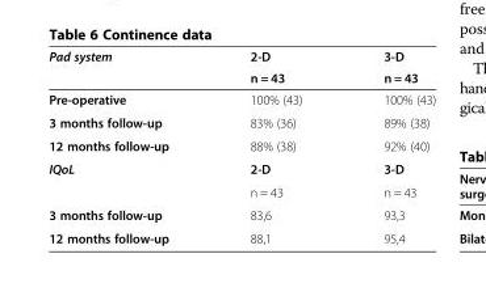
<table><thead><tr><td rowspan="2">Pad system</td><td rowspan="2">2-D n = 43</td><td rowspan="2">3-D n = 43</td></tr><tr></tr></thead><tbody><tr><td>Pre-operative</td><td>100% (43)</td><td>100% (43)</td></tr><tr><td>3 months follow-up</td><td>83% (36)</td><td>89% (38)</td></tr><tr><td>12 months follow-up</td><td>88% (38)</td><td>92% (40)</td></tr><tr><td rowspan="2">IQoL</td><td>2-D</td><td>3-D</td></tr><tr><td>n = 43</td><td>n = 43</td></tr><tr><td>3 months follow-up</td><td>83,6</td><td>93,3</td></tr><tr><td>12 months follow-up</td><td>88,1</td><td>95,4</td></tr></tbody></table>